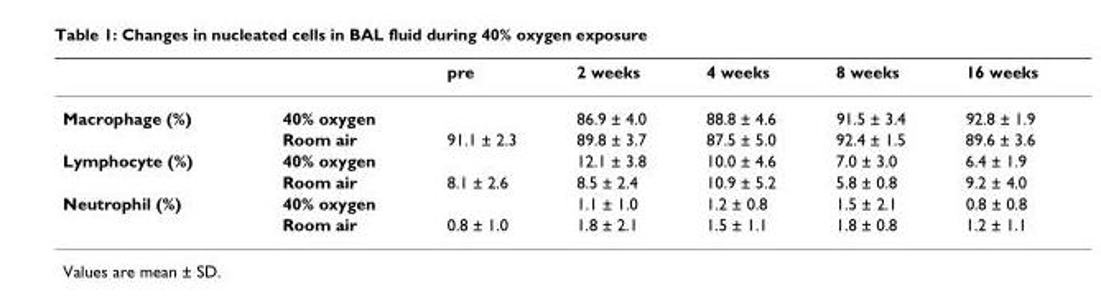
<table><thead><tr><td></td><td></td><td>pre</td><td>2 weeks</td><td>4 weeks</td><td>8 weeks</td><td>16 weeks</td></tr></thead><tbody><tr><td rowspan="2">Macrophage (%)</td><td>40% oxygen</td><td></td><td>86.9 ± 4.0</td><td>88.8 ± 4.6</td><td>91.5 ± 3.4</td><td>92.8 ± 1.9</td></tr><tr><td>Room air</td><td>91.1 ± 2.3</td><td>89.8 ± 3.7</td><td>87.5 ± 5.0</td><td>92.4 ± 1.5</td><td>89.6 ± 3.6</td></tr><tr><td rowspan="2">Lymphocyte (%)</td><td>40% oxygen</td><td></td><td>12.1 ± 3.8</td><td>10.0 ± 4.6</td><td>7.0 ± 3.0</td><td>6.4 ± 1.9</td></tr><tr><td>Room air</td><td>8.1 ± 2.6</td><td>8.5 ± 2.4</td><td>10.9 ± 5.2</td><td>5.8 ± 0.8</td><td>9.2 ± 4.0</td></tr><tr><td rowspan="2">Neutrophil (%)</td><td>40% oxygen</td><td></td><td>1.1 ± 1.0</td><td>1.2 ± 0.8</td><td>1.5 ± 2.1</td><td>0.8 ± 0.8</td></tr><tr><td>Room air</td><td>0.8 ± 1.0</td><td>1.8 ± 2.1</td><td>1.5 ± 1.1</td><td>1.8 ± 0.8</td><td>1.2 ± 1.1</td></tr></tbody></table>